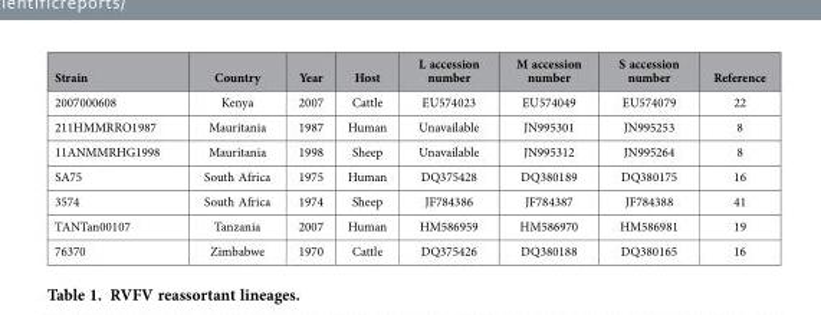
<table><thead><tr><td>Strain</td><td>Country</td><td>Year</td><td>Host</td><td>L accession number</td><td>M accession number</td><td>S accession number</td><td>Reference</td></tr></thead><tbody><tr><td>2007000608</td><td>Kenya</td><td>2007</td><td>Cattle</td><td>EU574023</td><td>EU574049</td><td>EU574079</td><td>22</td></tr><tr><td>211HMMRRO1987</td><td>Mauritania</td><td>1987</td><td>Human</td><td>Unavailable</td><td>JN995301</td><td>JN995253</td><td>8</td></tr><tr><td>11ANMMRHG1998</td><td>Mauritania</td><td>1998</td><td>Sheep</td><td>Unavailable</td><td>JN995312</td><td>JN995264</td><td>8</td></tr><tr><td>SA75</td><td>South Africa</td><td>1975</td><td>Human</td><td>DQ375428</td><td>DQ380189</td><td>DQ380175</td><td>16</td></tr><tr><td>3574</td><td>South Africa</td><td>1974</td><td>Sheep</td><td>JF784386</td><td>JF784387</td><td>JF784388</td><td>41</td></tr><tr><td>TANTan00107</td><td>Tanzania</td><td>2007</td><td>Human</td><td>HM586959</td><td>HM586970</td><td>HM586981</td><td>19</td></tr><tr><td>76370</td><td>Zimbabwe</td><td>1970</td><td>Cattle</td><td>DQ375426</td><td>DQ380188</td><td>DQ380165</td><td>16</td></tr></tbody></table>